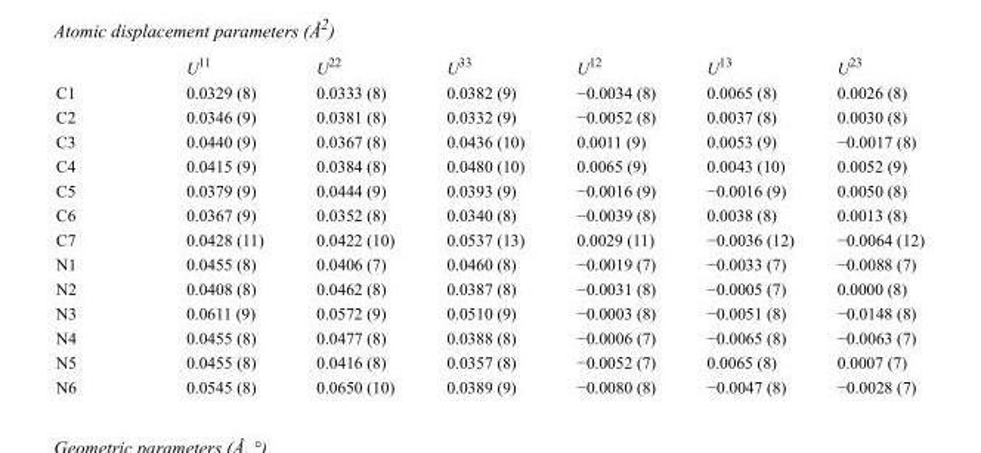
<table><thead><tr><td></td><td>U<sup>11</sup></td><td>U<sup>22</sup></td><td>U<sup>33</sup></td><td>U<sup>12</sup></td><td>U<sup>13</sup></td><td>U<sup>23</sup></td></tr></thead><tbody><tr><td>C1</td><td>0.0329 (8)</td><td>0.0333 (8)</td><td>0.0382 (9)</td><td>−0.0034 (8)</td><td>0.0065 (8)</td><td>0.0026 (8)</td></tr><tr><td>C2</td><td>0.0346 (9)</td><td>0.0381 (8)</td><td>0.0332 (9)</td><td>−0.0052 (8)</td><td>0.0037 (8)</td><td>0.0030 (8)</td></tr><tr><td>C3</td><td>0.0440 (9)</td><td>0.0367 (8)</td><td>0.0436 (10)</td><td>0.0011 (9)</td><td>0.0053 (9)</td><td>−0.0017 (8)</td></tr><tr><td>C4</td><td>0.0415 (9)</td><td>0.0384 (8)</td><td>0.0480 (10)</td><td>0.0065 (9)</td><td>0.0043 (10)</td><td>0.0052 (9)</td></tr><tr><td>C5</td><td>0.0379 (9)</td><td>0.0444 (9)</td><td>0.0393 (9)</td><td>−0.0016 (9)</td><td>−0.0016 (9)</td><td>0.0050 (8)</td></tr><tr><td>C6</td><td>0.0367 (9)</td><td>0.0352 (8)</td><td>0.0340 (8)</td><td>−0.0039 (8)</td><td>0.0038 (8)</td><td>0.0013 (8)</td></tr><tr><td>C7</td><td>0.0428 (11)</td><td>0.0422 (10)</td><td>0.0537 (13)</td><td>0.0029 (11)</td><td>−0.0036 (12)</td><td>−0.0064 (12)</td></tr><tr><td>N1</td><td>0.0455 (8)</td><td>0.0406 (7)</td><td>0.0460 (8)</td><td>−0.0019 (7)</td><td>−0.0033 (7)</td><td>−0.0088 (7)</td></tr><tr><td>N2</td><td>0.0408 (8)</td><td>0.0462 (8)</td><td>0.0387 (8)</td><td>−0.0031 (8)</td><td>−0.0005 (7)</td><td>0.0000 (8)</td></tr><tr><td>N3</td><td>0.0611 (9)</td><td>0.0572 (9)</td><td>0.0510 (9)</td><td>−0.0003 (8)</td><td>−0.0051 (8)</td><td>−0.0148 (8)</td></tr><tr><td>N4</td><td>0.0455 (8)</td><td>0.0477 (8)</td><td>0.0388 (8)</td><td>−0.0006 (7)</td><td>−0.0065 (8)</td><td>−0.0063 (7)</td></tr><tr><td>N5</td><td>0.0455 (8)</td><td>0.0416 (8)</td><td>0.0357 (8)</td><td>−0.0052 (7)</td><td>0.0065 (8)</td><td>0.0007 (7)</td></tr><tr><td>N6</td><td>0.0545 (8)</td><td>0.0650 (10)</td><td>0.0389 (9)</td><td>−0.0080 (8)</td><td>−0.0047 (8)</td><td>−0.0028 (7)</td></tr></tbody></table>